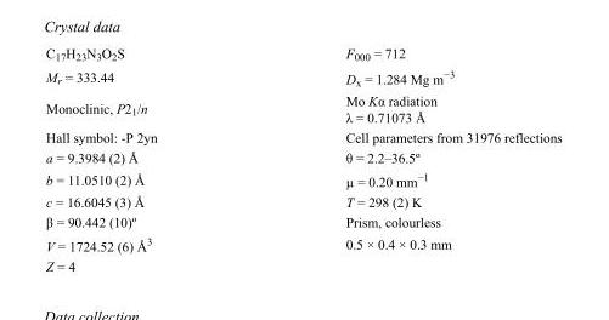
<table><tbody><tr><td>C<sub>17</sub>H<sub>23</sub>N<sub>3</sub>O<sub>2</sub>S</td><td>F000 = 712</td></tr><tr><td>M<sub>r</sub> = 333.44</td><td>D<sub>x</sub> = 1.284 Mg m<sup>−3</sup></td></tr><tr><td>Monoclinic, P2<sub>1</sub>/n</td><td>Mo Kα radiation λ = 0.71073 Å</td></tr><tr><td>Hall symbol: -P 2yn</td><td>Cell parameters from 31976 reflections</td></tr><tr><td>a = 9.3984 (2) Å</td><td>θ = 2.2–36.5º</td></tr><tr><td>b = 11.0510 (2) Å</td><td>µ = 0.20 mm<sup>−1</sup></td></tr><tr><td>c = 16.6045 (3) Å</td><td>T = 298 (2) K</td></tr><tr><td>β = 90.442 (10)º</td><td>Prism, colourless</td></tr><tr><td>V = 1724.52 (6) Å<sup>3</sup></td><td>0.5 × 0.4 × 0.3 mm</td></tr><tr><td>Z = 4</td><td></td></tr></tbody></table>